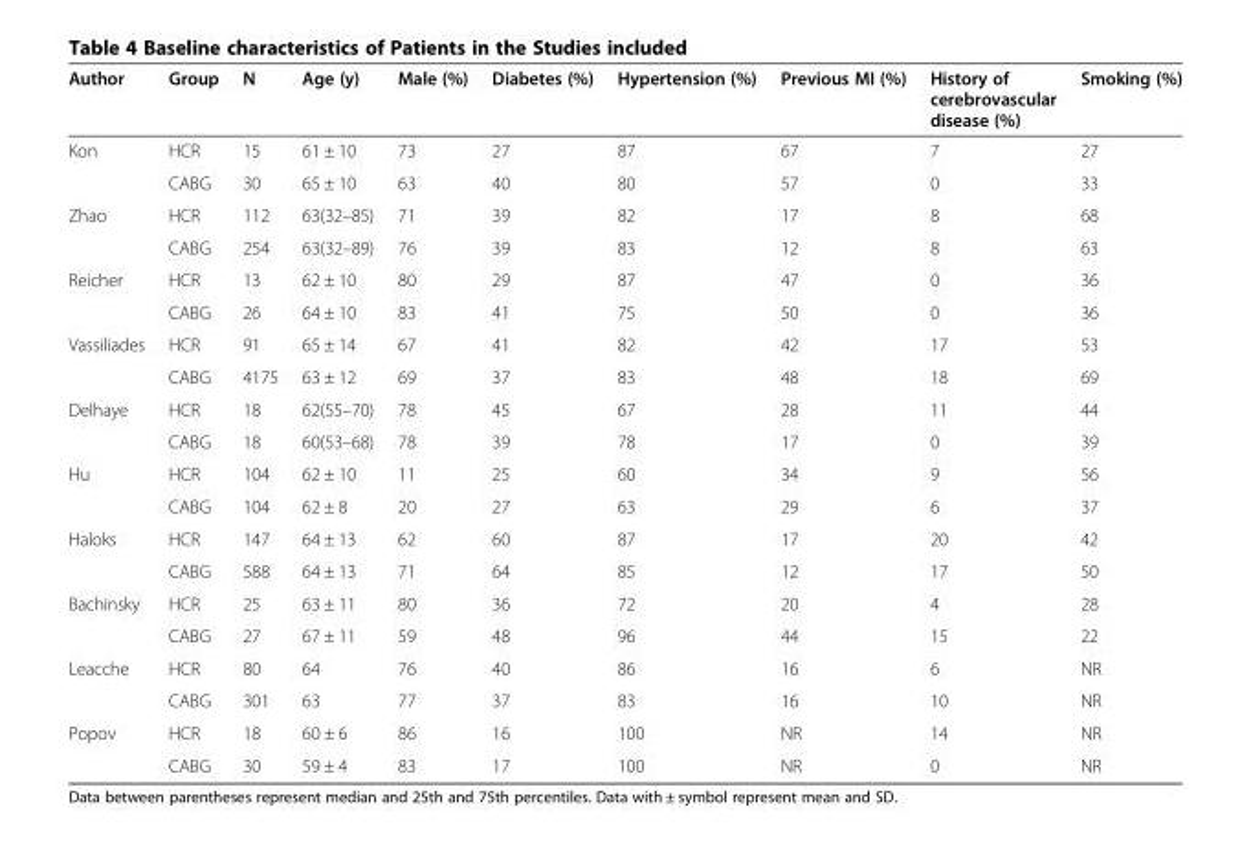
<table><thead><tr><td>Author</td><td>Group</td><td>N</td><td>Age (y)</td><td>Male (%)</td><td>Diabetes (%)</td><td>Hypertension (%)</td><td>Previous MI (%)</td><td>History of cerebrovascular disease (%)</td><td>Smoking (%)</td></tr></thead><tbody><tr><td rowspan="2">Kon</td><td>HCR</td><td>15</td><td>61 ± 10</td><td>73</td><td>27</td><td>87</td><td>67</td><td>7</td><td>27</td></tr><tr><td>CABG</td><td>30</td><td>65 ± 10</td><td>63</td><td>40</td><td>80</td><td>57</td><td>0</td><td>33</td></tr><tr><td rowspan="2">Zhao</td><td>HCR</td><td>112</td><td>63(32–85)</td><td>71</td><td>39</td><td>82</td><td>17</td><td>8</td><td>68</td></tr><tr><td>CABG</td><td>254</td><td>63(32–89)</td><td>76</td><td>39</td><td>83</td><td>12</td><td>8</td><td>63</td></tr><tr><td rowspan="2">Reicher</td><td>HCR</td><td>13</td><td>62 ± 10</td><td>80</td><td>29</td><td>87</td><td>47</td><td>0</td><td>36</td></tr><tr><td>CABG</td><td>26</td><td>64 ± 10</td><td>83</td><td>41</td><td>75</td><td>50</td><td>0</td><td>36</td></tr><tr><td rowspan="2">Vassiliades</td><td>HCR</td><td>91</td><td>65 ± 14</td><td>67</td><td>41</td><td>82</td><td>42</td><td>17</td><td>53</td></tr><tr><td>CABG</td><td>4175</td><td>63 ± 12</td><td>69</td><td>37</td><td>83</td><td>48</td><td>18</td><td>69</td></tr><tr><td rowspan="2">Delhaye</td><td>HCR</td><td>18</td><td>62(55–70)</td><td>78</td><td>45</td><td>67</td><td>28</td><td>11</td><td>44</td></tr><tr><td>CABG</td><td>18</td><td>60(53–68)</td><td>78</td><td>39</td><td>78</td><td>17</td><td>0</td><td>39</td></tr><tr><td rowspan="2">Hu</td><td>HCR</td><td>104</td><td>62 ± 10</td><td>11</td><td>25</td><td>60</td><td>34</td><td>9</td><td>56</td></tr><tr><td>CABG</td><td>104</td><td>62 ± 8</td><td>20</td><td>27</td><td>63</td><td>29</td><td>6</td><td>37</td></tr><tr><td rowspan="2">Haloks</td><td>HCR</td><td>147</td><td>64 ± 13</td><td>62</td><td>60</td><td>87</td><td>17</td><td>20</td><td>42</td></tr><tr><td>CABG</td><td>588</td><td>64 ± 13</td><td>71</td><td>64</td><td>85</td><td>12</td><td>17</td><td>50</td></tr><tr><td rowspan="2">Bachinsky</td><td>HCR</td><td>25</td><td>63 ± 11</td><td>80</td><td>36</td><td>72</td><td>20</td><td>4</td><td>28</td></tr><tr><td>CABG</td><td>27</td><td>67 ± 11</td><td>59</td><td>48</td><td>96</td><td>44</td><td>15</td><td>22</td></tr><tr><td rowspan="2">Leacche</td><td>HCR</td><td>80</td><td>64</td><td>76</td><td>40</td><td>86</td><td>16</td><td>6</td><td>NR</td></tr><tr><td>CABG</td><td>301</td><td>63</td><td>77</td><td>37</td><td>83</td><td>16</td><td>10</td><td>NR</td></tr><tr><td rowspan="2">Popov</td><td>HCR</td><td>18</td><td>60 ± 6</td><td>86</td><td>16</td><td>100</td><td>NR</td><td>14</td><td>NR</td></tr><tr><td>CABG</td><td>30</td><td>59 ± 4</td><td>83</td><td>17</td><td>100</td><td>NR</td><td>0</td><td>NR</td></tr></tbody></table>